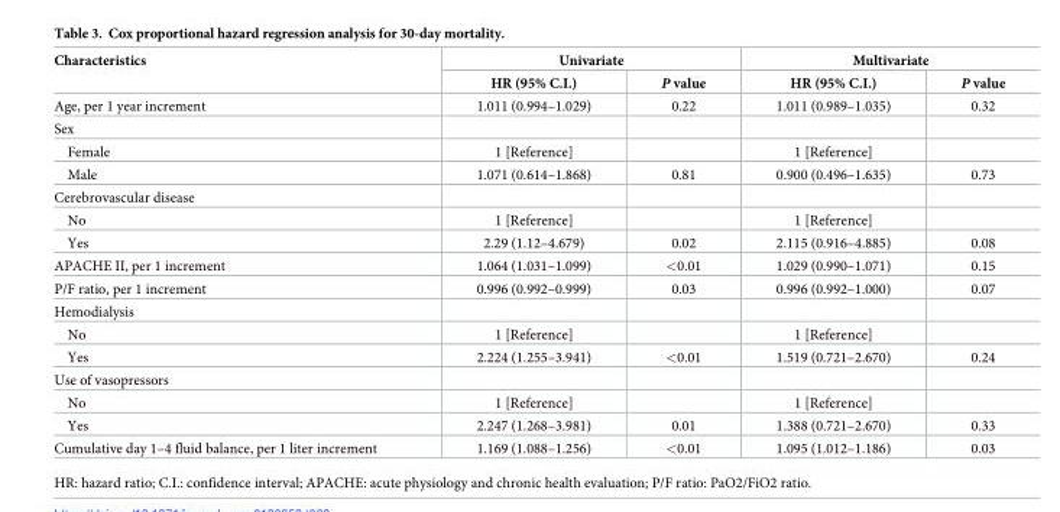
<table><thead><tr><td rowspan="2">Characteristics</td><td colspan="2">Univariate</td><td colspan="2">Multivariate</td></tr><tr><td>HR (95% C.I.)</td><td>P value</td><td>HR (95% C.I.)</td><td>P value</td></tr></thead><tbody><tr><td>Age, per 1 year increment</td><td>1.011 (0.994–1.029)</td><td>0.22</td><td>1.011 (0.989–1.035)</td><td>0.32</td></tr><tr><td colspan="5">Sex</td></tr><tr><td>Female</td><td>1 [Reference]</td><td></td><td>1 [Reference]</td><td></td></tr><tr><td>Male</td><td>1.071 (0.614–1.868)</td><td>0.81</td><td>0.900 (0.496–1.635)</td><td>0.73</td></tr><tr><td colspan="5">Cerebrovascular disease</td></tr><tr><td>No</td><td>1 [Reference]</td><td></td><td>1 [Reference]</td><td></td></tr><tr><td>Yes</td><td>2.29 (1.12–4.679)</td><td>0.02</td><td>2.115 (0.916–4.885)</td><td>0.08</td></tr><tr><td>APACHE II, per 1 increment</td><td>1.064 (1.031–1.099)</td><td>&lt;0.01</td><td>1.029 (0.990–1.071)</td><td>0.15</td></tr><tr><td>P/F ratio, per 1 increment</td><td>0.996 (0.992–0.999)</td><td>0.03</td><td>0.996 (0.992–1.000)</td><td>0.07</td></tr><tr><td colspan="5">Hemodialysis</td></tr><tr><td>No</td><td>1 [Reference]</td><td></td><td>1 [Reference]</td><td></td></tr><tr><td>Yes</td><td>2.224 (1.255–3.941)</td><td>&lt;0.01</td><td>1.519 (0.721–2.670)</td><td>0.24</td></tr><tr><td colspan="5">Use of vasopressors</td></tr><tr><td>No</td><td>1 [Reference]</td><td></td><td>1 [Reference]</td><td></td></tr><tr><td>Yes</td><td>2.247 (1.268–3.981)</td><td>0.01</td><td>1.388 (0.721–2.670)</td><td>0.33</td></tr><tr><td>Cumulative day 1–4 fluid balance, per 1 liter increment</td><td>1.169 (1.088–1.256)</td><td>&lt;0.01</td><td>1.095 (1.012–1.186)</td><td>0.03</td></tr></tbody></table>